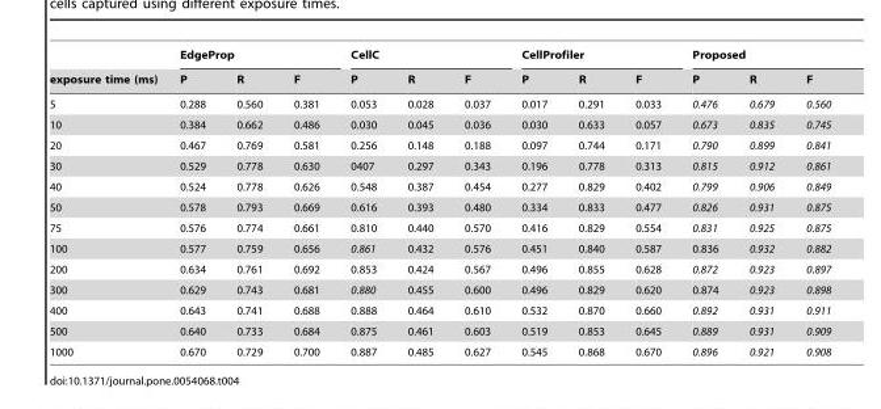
<table><thead><tr><td rowspan="2">exposure time (ms)</td><td colspan="3">EdgeProp</td><td colspan="3">CellC</td><td colspan="3">CellProfiler</td><td colspan="3">Proposed</td></tr><tr><td>P</td><td>R</td><td>F</td><td>P</td><td>R</td><td>F</td><td>P</td><td>R</td><td>F</td><td>P</td><td>R</td><td>F</td></tr></thead><tbody><tr><td>5</td><td>0.288</td><td>0.560</td><td>0.381</td><td>0.053</td><td>0.028</td><td>0.037</td><td>0.017</td><td>0.291</td><td>0.033</td><td>0.476</td><td>0.679</td><td>0.560</td></tr><tr><td>10</td><td>0.384</td><td>0.662</td><td>0.486</td><td>0.030</td><td>0.045</td><td>0.036</td><td>0.030</td><td>0.633</td><td>0.057</td><td>0.673</td><td>0.835</td><td>0.745</td></tr><tr><td>20</td><td>0.467</td><td>0.769</td><td>0.581</td><td>0.256</td><td>0.148</td><td>0.188</td><td>0.097</td><td>0.744</td><td>0.171</td><td>0.790</td><td>0.899</td><td>0.841</td></tr><tr><td>30</td><td>0.529</td><td>0.778</td><td>0.630</td><td>0407</td><td>0.297</td><td>0.343</td><td>0.196</td><td>0.778</td><td>0.313</td><td>0.815</td><td>0.912</td><td>0.861</td></tr><tr><td>40</td><td>0.524</td><td>0.778</td><td>0.626</td><td>0.548</td><td>0.387</td><td>0.454</td><td>0.277</td><td>0.829</td><td>0.402</td><td>0.799</td><td>0.906</td><td>0.849</td></tr><tr><td>50</td><td>0.578</td><td>0.793</td><td>0.669</td><td>0.616</td><td>0.393</td><td>0.480</td><td>0.334</td><td>0.833</td><td>0.477</td><td>0.826</td><td>0.931</td><td>0.875</td></tr><tr><td>75</td><td>0.576</td><td>0.774</td><td>0.661</td><td>0.810</td><td>0.440</td><td>0.570</td><td>0.416</td><td>0.829</td><td>0.554</td><td>0.831</td><td>0.925</td><td>0.875</td></tr><tr><td>100</td><td>0.577</td><td>0.759</td><td>0.656</td><td>0.861</td><td>0.432</td><td>0.576</td><td>0.451</td><td>0.840</td><td>0.587</td><td>0.836</td><td>0.932</td><td>0.882</td></tr><tr><td>200</td><td>0.634</td><td>0.761</td><td>0.692</td><td>0.853</td><td>0.424</td><td>0.567</td><td>0.496</td><td>0.855</td><td>0.628</td><td>0.872</td><td>0.923</td><td>0.897</td></tr><tr><td>300</td><td>0.629</td><td>0.743</td><td>0.681</td><td>0.880</td><td>0.455</td><td>0.600</td><td>0.496</td><td>0.829</td><td>0.620</td><td>0.874</td><td>0.923</td><td>0.898</td></tr><tr><td>400</td><td>0.643</td><td>0.741</td><td>0.688</td><td>0.888</td><td>0.464</td><td>0.610</td><td>0.532</td><td>0.870</td><td>0.660</td><td>0.892</td><td>0.931</td><td>0.911</td></tr><tr><td>500</td><td>0.640</td><td>0.733</td><td>0.684</td><td>0.875</td><td>0.461</td><td>0.603</td><td>0.519</td><td>0.853</td><td>0.645</td><td>0.889</td><td>0.931</td><td>0.909</td></tr><tr><td>1000</td><td>0.670</td><td>0.729</td><td>0.700</td><td>0.887</td><td>0.485</td><td>0.627</td><td>0.545</td><td>0.868</td><td>0.670</td><td>0.896</td><td>0.921</td><td>0.908</td></tr></tbody></table>